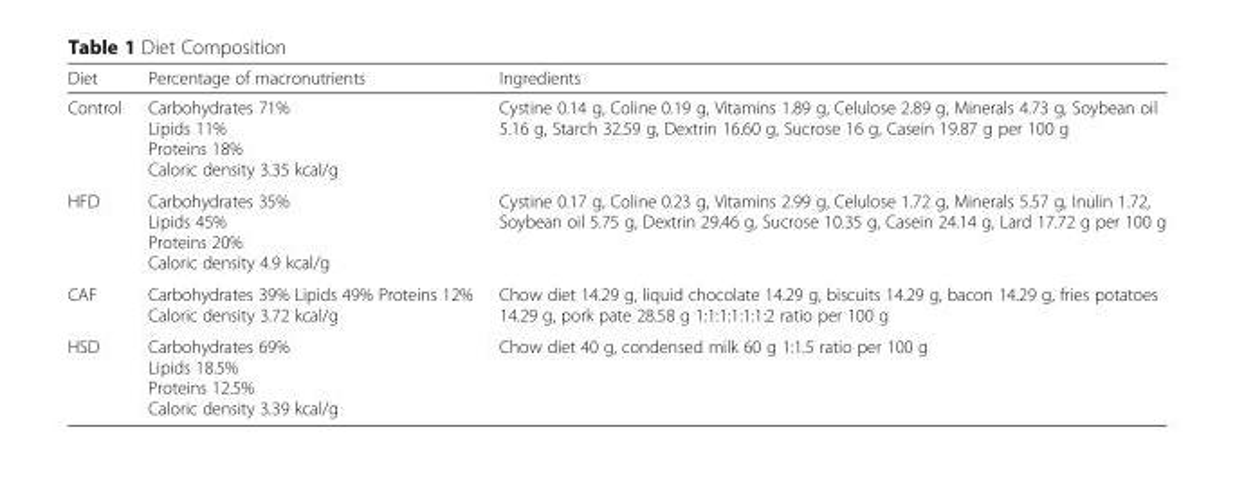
<table><thead><tr><td>Diet</td><td>Percentage of macronutrients</td><td>Ingredients</td></tr></thead><tbody><tr><td>Control</td><td>Carbohydrates 71% Lipids 11% Proteins 18% Caloric density 3.35 kcal/g</td><td>Cystine 0.14 g, Coline 0.19 g, Vitamins 1.89 g, Celulose 2.89 g, Minerals 4.73 g, Soybean oil 5.16 g, Starch 32.59 g, Dextrin 16.60 g, Sucrose 16 g, Casein 19.87 g per 100 g</td></tr><tr><td>HFD</td><td>Carbohydrates 35% Lipids 45% Proteins 20% Caloric density 4.9 kcal/g</td><td>Cystine 0.17 g, Coline 0.23 g, Vitamins 2.99 g, Celulose 1.72 g, Minerals 5.57 g, Inulin 1.72, Soybean oil 5.75 g, Dextrin 29.46 g, Sucrose 10.35 g, Casein 24.14 g, Lard 17.72 g per 100 g</td></tr><tr><td>CAF</td><td>Carbohydrates 39% Lipids 49% Proteins 12% Caloric density 3.72 kcal/g</td><td>Chow diet 14.29 g, liquid chocolate 14.29 g, biscuits 14.29 g, bacon 14.29 g, fries potatoes 14.29 g, pork pate 28.58 g 1:1:1:1:1:1:2 ratio per 100 g</td></tr><tr><td>HSD</td><td>Carbohydrates 69% Lipids 18.5% Proteins 12.5% Caloric density 3.39 kcal/g</td><td>Chow diet 40 g, condensed milk 60 g 1:1.5 ratio per 100 g</td></tr></tbody></table>